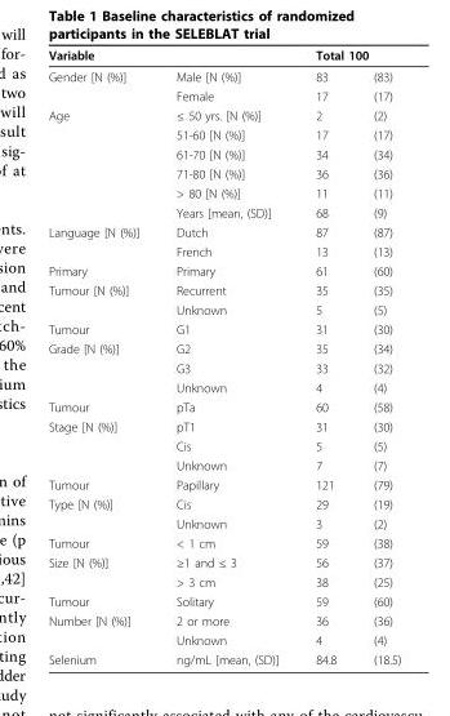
<table><thead><tr><td rowspan="2">Variable Gender [N (%)]</td><td rowspan="2">Male [N (%)]</td><td colspan="2">Total 100</td></tr><tr><td>83</td><td>(83)</td></tr></thead><tbody><tr><td></td><td>Female</td><td>17</td><td>(17)</td></tr><tr><td rowspan="6">Age</td><td>≤ 50 yrs. [N (%)]</td><td>2</td><td>(2)</td></tr><tr><td>51-60 [N (%)]</td><td>17</td><td>(17)</td></tr><tr><td>61-70 [N (%)]</td><td>34</td><td>(34)</td></tr><tr><td>71-80 [N (%)]</td><td>36</td><td>(36)</td></tr><tr><td>&gt; 80 [N (%)]</td><td>11</td><td>(11)</td></tr><tr><td>Years [mean, (SD)]</td><td>68</td><td>(9)</td></tr><tr><td rowspan="2">Language [N (%)]</td><td>Dutch</td><td>87</td><td>(87)</td></tr><tr><td>French</td><td>13</td><td>(13)</td></tr><tr><td>Primary</td><td>Primary</td><td>61</td><td>(60)</td></tr><tr><td rowspan="2">Tumour [N (%)]</td><td>Recurrent</td><td>35</td><td>(35)</td></tr><tr><td>Unknown</td><td>5</td><td>(5)</td></tr><tr><td>Tumour</td><td>G1</td><td>31</td><td>(30)</td></tr><tr><td rowspan="3">Grade [N (%)]</td><td>G2</td><td>35</td><td>(34)</td></tr><tr><td>G3</td><td>33</td><td>(32)</td></tr><tr><td>Unknown</td><td>4</td><td>(4)</td></tr><tr><td>Tumour</td><td>pTa</td><td>60</td><td>(58)</td></tr><tr><td rowspan="3">Stage [N (%)]</td><td>pT1</td><td>31</td><td>(30)</td></tr><tr><td>Cis</td><td>5</td><td>(5)</td></tr><tr><td>Unknown</td><td>7</td><td>(7)</td></tr><tr><td>Tumour</td><td>Papillary</td><td>121</td><td>(79)</td></tr><tr><td rowspan="2">Type [N (%)]</td><td>Cis</td><td>29</td><td>(19)</td></tr><tr><td>Unknown</td><td>3</td><td>(2)</td></tr><tr><td>Tumour</td><td>&lt; 1 cm</td><td>59</td><td>(38)</td></tr><tr><td rowspan="2">Size [N (%)]</td><td>≥1 and ≤ 3</td><td>56</td><td>(37)</td></tr><tr><td>&gt; 3 cm</td><td>38</td><td>(25)</td></tr><tr><td>Tumour</td><td>Solitary</td><td>59</td><td>(60)</td></tr><tr><td rowspan="2">Number [N (%)]</td><td>2 or more</td><td>36</td><td>(36)</td></tr><tr><td>Unknown</td><td>4</td><td>(4)</td></tr><tr><td>Selenium</td><td>ng/mL [mean, (SD)]</td><td>84.8</td><td>(18.5)</td></tr></tbody></table>